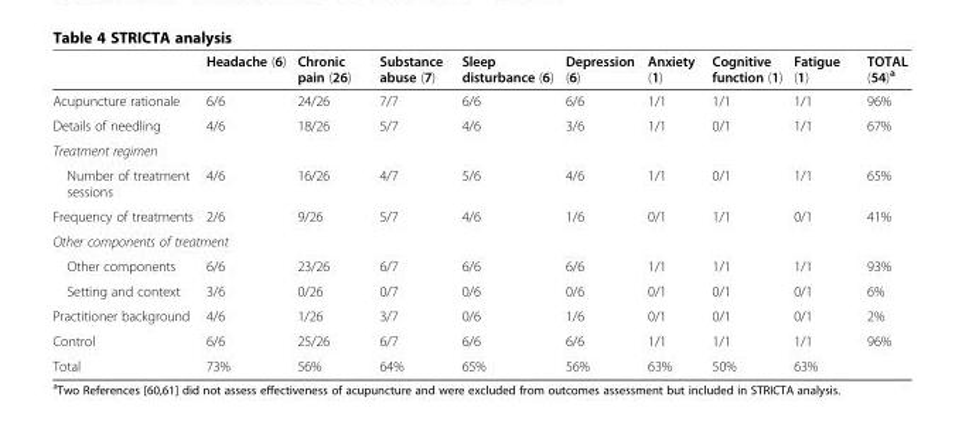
<table><thead><tr><td></td><td>Headache (6)</td><td>Chronic pain (26)</td><td>Substance abuse (7)</td><td>Sleep disturbance (6)</td><td>Depression (6)</td><td>Anxiety (1)</td><td>Cognitive function (1)</td><td>Fatigue (1)</td><td>TOTAL (54)<sup>a</sup></td></tr></thead><tbody><tr><td>Acupuncture rationale</td><td>6/6</td><td>24/26</td><td>7/7</td><td>6/6</td><td>6/6</td><td>1/1</td><td>1/1</td><td>1/1</td><td>96%</td></tr><tr><td>Details of needling</td><td>4/6</td><td>18/26</td><td>5/7</td><td>4/6</td><td>3/6</td><td>1/1</td><td>0/1</td><td>1/1</td><td>67%</td></tr><tr><td colspan="10">Treatment regimen</td></tr><tr><td>Number of treatment sessions</td><td>4/6</td><td>16/26</td><td>4/7</td><td>5/6</td><td>4/6</td><td>1/1</td><td>0/1</td><td>1/1</td><td>65%</td></tr><tr><td>Frequency of treatments</td><td>2/6</td><td>9/26</td><td>5/7</td><td>4/6</td><td>1/6</td><td>0/1</td><td>1/1</td><td>0/1</td><td>41%</td></tr><tr><td colspan="10">Other components of treatment</td></tr><tr><td>Other components</td><td>6/6</td><td>23/26</td><td>6/7</td><td>6/6</td><td>6/6</td><td>1/1</td><td>1/1</td><td>1/1</td><td>93%</td></tr><tr><td>Setting and context</td><td>3/6</td><td>0/26</td><td>0/7</td><td>0/6</td><td>0/6</td><td>0/1</td><td>0/1</td><td>0/1</td><td>6%</td></tr><tr><td>Practitioner background</td><td>4/6</td><td>1/26</td><td>3/7</td><td>0/6</td><td>1/6</td><td>0/1</td><td>0/1</td><td>0/1</td><td>2%</td></tr><tr><td>Control</td><td>6/6</td><td>25/26</td><td>6/7</td><td>6/6</td><td>6/6</td><td>1/1</td><td>1/1</td><td>1/1</td><td>96%</td></tr><tr><td>Total</td><td>73%</td><td>56%</td><td>64%</td><td>65%</td><td>56%</td><td>63%</td><td>50%</td><td>63%</td><td></td></tr></tbody></table>